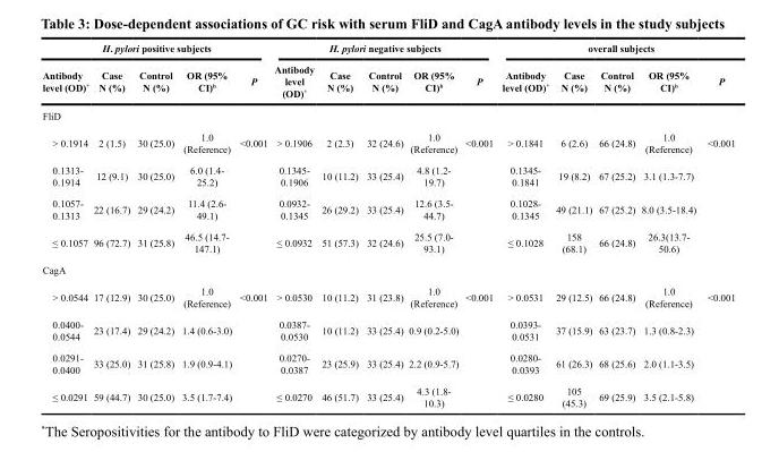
<table><thead><tr><td colspan="5">H. pylori positive subjects</td><td colspan="5">H. pylori negative subjects</td><td colspan="5">overall subjects</td></tr><tr><td>Antibody level (OD)*</td><td>Case N (%)</td><td>Control N (%)</td><td>OR (95% CI)<sup>b</sup></td><td>P</td><td>Antibody level (OD)*</td><td>Case N (%)</td><td>Control N (%)</td><td>OR (95% CI)<sup>b</sup></td><td>P</td><td>Antibody level (OD)*</td><td>Case N (%)</td><td>Control N (%)</td><td>OR (95% CI)<sup>b</sup></td><td>P</td></tr></thead><tbody><tr><td colspan="15">FliD</td></tr><tr><td>&gt; 0.1914</td><td>2 (1.5)</td><td>30 (25.0)</td><td>1.0 (Reference)</td><td>&lt;0.001</td><td>&gt; 0.1906</td><td>2 (2.3)</td><td>32 (24.6)</td><td>1.0 (Reference)</td><td>&lt;0.001</td><td>&gt; 0.1841</td><td>6 (2.6)</td><td>66 (24.8)</td><td>1.0 (Reference)</td><td>&lt;0.001</td></tr><tr><td>0.1313- 0.1914</td><td>12 (9.1)</td><td>30 (25.0)</td><td>6.0 (1.4- 25.2)</td><td></td><td>0.1345- 0.1906</td><td>10 (11.2)</td><td>33 (25.4)</td><td>4.8 (1.2- 19.7)</td><td></td><td>0.1345- 0.1841</td><td>19 (8.2)</td><td>67 (25.2)</td><td>3.1 (1.3-7.7)</td><td></td></tr><tr><td>0.1057- 0.1313</td><td>22 (16.7)</td><td>29 (24.2)</td><td>11.4 (2.6- 49.1)</td><td></td><td>0.0932- 0.1345</td><td>26 (29.2)</td><td>33 (25.4)</td><td>12.6 (3.5- 44.7)</td><td></td><td>0.1028- 0.1345</td><td>49 (21.1)</td><td>67 (25.2)</td><td>8.0 (3.5-18.4)</td><td></td></tr><tr><td>≤ 0.1057</td><td>96 (72.7)</td><td>31 (25.8)</td><td>46.5 (14.7- 147.1)</td><td></td><td>≤ 0.0932</td><td>51 (57.3)</td><td>32 (24.6)</td><td>25.5 (7.0- 93.1)</td><td></td><td>≤ 0.1028</td><td>158 (68.1)</td><td>66 (24.8)</td><td>26.3(13.7- 50.6)</td><td></td></tr><tr><td colspan="15">CagA</td></tr><tr><td>&gt; 0.0544</td><td>17 (12.9)</td><td>30 (25.0)</td><td>1.0 (Reference)</td><td>&lt;0.001</td><td>&gt; 0.0530</td><td>10 (11.2)</td><td>31 (23.8)</td><td>1.0 (Reference)</td><td>&lt;0.001</td><td>&gt; 0.0531</td><td>29 (12.5)</td><td>66 (24.8)</td><td>1.0 (Reference)</td><td>&lt;0.001</td></tr><tr><td>0.0400- 0.0544</td><td>23 (17.4)</td><td>29 (24.2)</td><td>1.4 (0.6-3.0)</td><td></td><td>0.0387- 0.0530</td><td>10 (11.2)</td><td>33 (25.4)</td><td>0.9 (0.2-5.0)</td><td></td><td>0.0393- 0.0531</td><td>37 (15.9)</td><td>63 (23.7)</td><td>1.3 (0.8-2.3)</td><td></td></tr><tr><td>0.0291- 0.0400</td><td>33 (25.0)</td><td>31 (25.8)</td><td>1.9 (0.9-4.1)</td><td></td><td>0.0270- 0.0387</td><td>23 (25.9)</td><td>33 (25.4)</td><td>2.2 (0.9-5.7)</td><td></td><td>0.0280- 0.0393</td><td>61 (26.3)</td><td>68 (25.6)</td><td>2.0 (1.1-3.5)</td><td></td></tr><tr><td>≤ 0.0291</td><td>59 (44.7)</td><td>30 (25.0)</td><td>3.5 (1.7-7.4)</td><td></td><td>≤ 0.0270</td><td>46 (51.7)</td><td>33 (25.4)</td><td>4.3 (1.8- 10.3)</td><td></td><td>≤ 0.0280</td><td>105 (45.3)</td><td>69 (25.9)</td><td>3.5 (2.1-5.8)</td><td></td></tr></tbody></table>